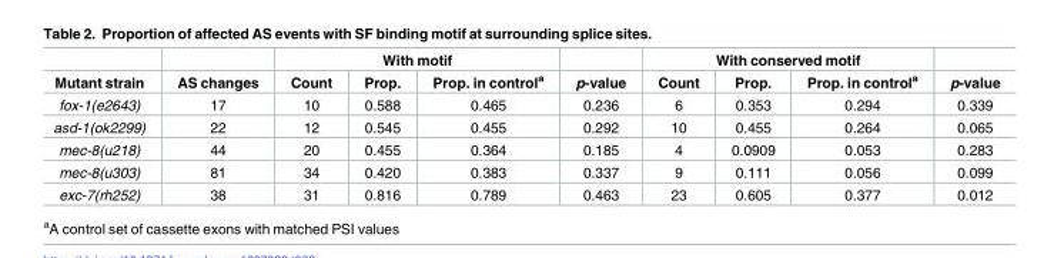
<table><thead><tr><td rowspan="2">Mutant strain</td><td rowspan="2">AS changes</td><td colspan="3">With motif</td><td rowspan="2">p-value</td><td colspan="3">With conserved motif</td><td rowspan="2">p-value</td></tr><tr><td>Count</td><td>Prop.</td><td>Prop. in control<sup>a</sup></td><td>Count</td><td>Prop.</td><td>Prop. in control<sup>a</sup></td></tr></thead><tbody><tr><td>fox-1(e2643)</td><td>17</td><td>10</td><td>0.588</td><td>0.465</td><td>0.236</td><td>6</td><td>0.353</td><td>0.294</td><td>0.339</td></tr><tr><td>asd-1(ok2299)</td><td>22</td><td>12</td><td>0.545</td><td>0.455</td><td>0.292</td><td>10</td><td>0.455</td><td>0.264</td><td>0.065</td></tr><tr><td>mec-8(u218)</td><td>44</td><td>20</td><td>0.455</td><td>0.364</td><td>0.185</td><td>4</td><td>0.0909</td><td>0.053</td><td>0.283</td></tr><tr><td>mec-8(u303)</td><td>81</td><td>34</td><td>0.420</td><td>0.383</td><td>0.337</td><td>9</td><td>0.111</td><td>0.056</td><td>0.099</td></tr><tr><td>exc-7(rh252)</td><td>38</td><td>31</td><td>0.816</td><td>0.789</td><td>0.463</td><td>23</td><td>0.605</td><td>0.377</td><td>0.012</td></tr></tbody></table>